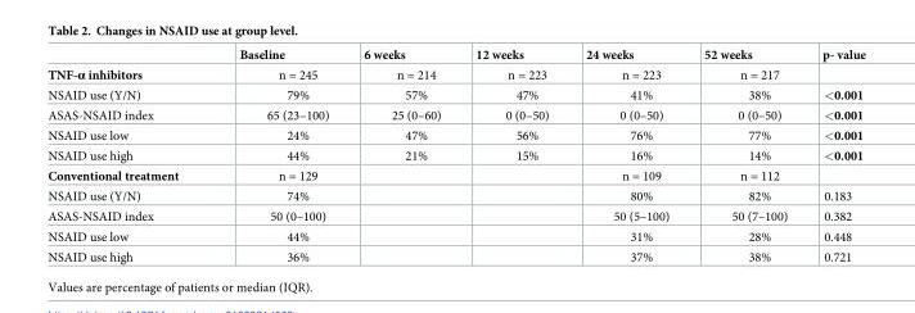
<table><thead><tr><td></td><td>Baseline</td><td>6 weeks</td><td>12 weeks</td><td>24 weeks</td><td>52 weeks</td><td>p- value</td></tr></thead><tbody><tr><td>TNF-α inhibitors</td><td>n = 245</td><td>n = 214</td><td>n = 223</td><td>n = 223</td><td>n = 217</td><td></td></tr><tr><td>NSAID use (Y/N)</td><td>79%</td><td>57%</td><td>47%</td><td>41%</td><td>38%</td><td>&lt;0.001</td></tr><tr><td>ASAS-NSAID index</td><td>65 (23–100)</td><td>25 (0–60)</td><td>0 (0–50)</td><td>0 (0–50)</td><td>0 (0–50)</td><td>&lt;0.001</td></tr><tr><td>NSAID use low</td><td>24%</td><td>47%</td><td>56%</td><td>76%</td><td>77%</td><td>&lt;0.001</td></tr><tr><td>NSAID use high</td><td>44%</td><td>21%</td><td>15%</td><td>16%</td><td>14%</td><td>&lt;0.001</td></tr><tr><td>Conventional treatment</td><td>n = 129</td><td></td><td></td><td>n = 109</td><td>n = 112</td><td></td></tr><tr><td>NSAID use (Y/N)</td><td>74%</td><td></td><td></td><td>80%</td><td>82%</td><td>0.183</td></tr><tr><td>ASAS-NSAID index</td><td>50 (0–100)</td><td></td><td></td><td>50 (5–100)</td><td>50 (7–100)</td><td>0.382</td></tr><tr><td>NSAID use low</td><td>44%</td><td></td><td></td><td>31%</td><td>28%</td><td>0.448</td></tr><tr><td>NSAID use high</td><td>36%</td><td></td><td></td><td>37%</td><td>38%</td><td>0.721</td></tr></tbody></table>